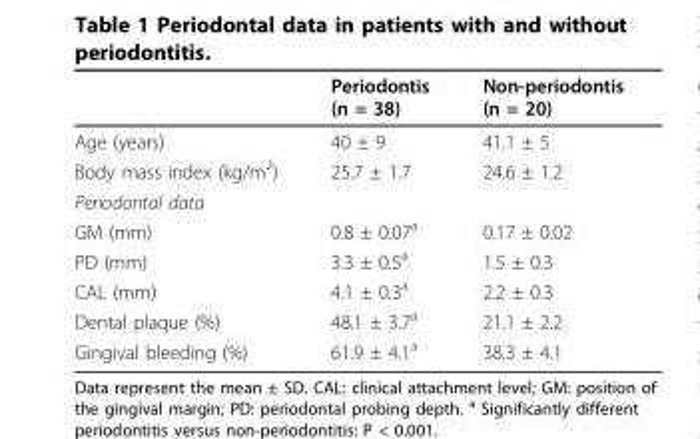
<table><thead><tr><td></td><td>Periodontis (n = 38)</td><td>Non-periodontis (n = 20)</td></tr></thead><tbody><tr><td>Age (years)</td><td>40 ± 9</td><td>41.1 ± 5</td></tr><tr><td>Body mass index (kg/m<sup>2</sup>)</td><td>25.7 ± 1.7</td><td>24.6 ± 1.2</td></tr><tr><td colspan="3">Periodontal data</td></tr><tr><td>GM (mm)</td><td>0.8 ± 0.07<sup>a</sup></td><td>0.17 ± 0.02</td></tr><tr><td>PD (mm)</td><td>3.3 ± 0.5<sup>a</sup></td><td>1.5 ± 0.3</td></tr><tr><td>CAL (mm)</td><td>4.1 ± 0.3<sup>a</sup></td><td>2.2 ± 0.3</td></tr><tr><td>Dental plaque (%)</td><td>48.1 ± 3.7<sup>a</sup></td><td>21.1 ± 2.2</td></tr><tr><td>Gingival bleeding (%)</td><td>61.9 ± 4.1<sup>a</sup></td><td>38.3 ± 4.1</td></tr></tbody></table>